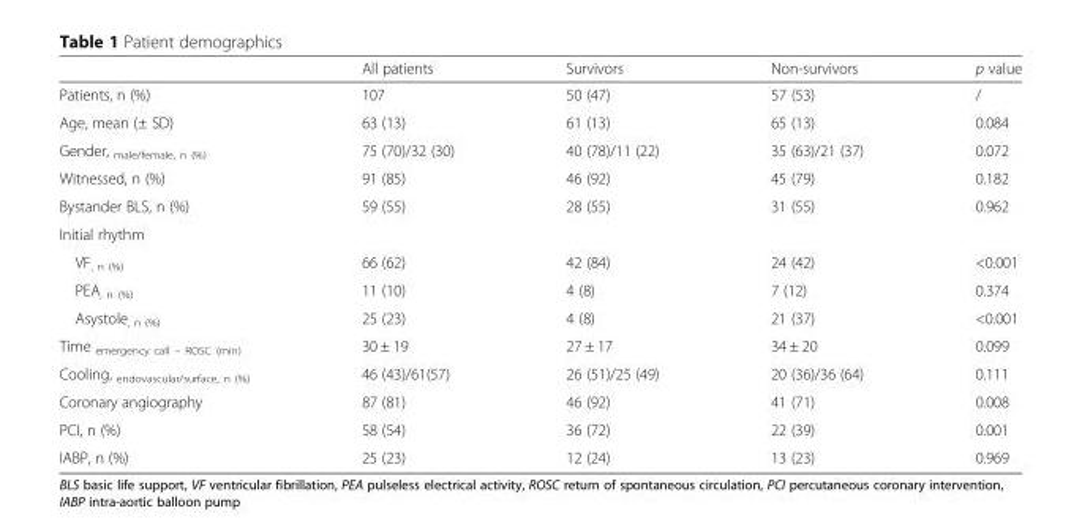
<table><thead><tr><td></td><td>All patients</td><td>Survivors</td><td>Non-survivors</td><td>p value</td></tr></thead><tbody><tr><td>Patients, n (%)</td><td>107</td><td>50 (47)</td><td>57 (53)</td><td>/</td></tr><tr><td>Age, mean (± SD)</td><td>63 (13)</td><td>61 (13)</td><td>65 (13)</td><td>0.084</td></tr><tr><td>Gender, <sub>male/female, n (%)</sub></td><td>75 (70)/32 (30)</td><td>40 (78)/11 (22)</td><td>35 (63)/21 (37)</td><td>0.072</td></tr><tr><td>Witnessed, n (%)</td><td>91 (85)</td><td>46 (92)</td><td>45 (79)</td><td>0.182</td></tr><tr><td>Bystander BLS, n (%)</td><td>59 (55)</td><td>28 (55)</td><td>31 (55)</td><td>0.962</td></tr><tr><td colspan="5">Initial rhythm</td></tr><tr><td>VF<sub>, n (%)</sub></td><td>66 (62)</td><td>42 (84)</td><td>24 (42)</td><td>&lt;0.001</td></tr><tr><td>PEA<sub>, n (%)</sub></td><td>11 (10)</td><td>4 (8)</td><td>7 (12)</td><td>0.374</td></tr><tr><td>Asystole<sub>, n (%)</sub></td><td>25 (23)</td><td>4 (8)</td><td>21 (37)</td><td>&lt;0.001</td></tr><tr><td>Time <sub>emergency call – ROSC (min)</sub></td><td>30 ± 19</td><td>27 ± 17</td><td>34 ± 20</td><td>0.099</td></tr><tr><td>Cooling, <sub>endovascular/surface, n (%)</sub></td><td>46 (43)/61(57)</td><td>26 (51)/25 (49)</td><td>20 (36)/36 (64)</td><td>0.111</td></tr><tr><td>Coronary angiography</td><td>87 (81)</td><td>46 (92)</td><td>41 (71)</td><td>0.008</td></tr><tr><td>PCI, n (%)</td><td>58 (54)</td><td>36 (72)</td><td>22 (39)</td><td>0.001</td></tr><tr><td>IABP, n (%)</td><td>25 (23)</td><td>12 (24)</td><td>13 (23)</td><td>0.969</td></tr></tbody></table>